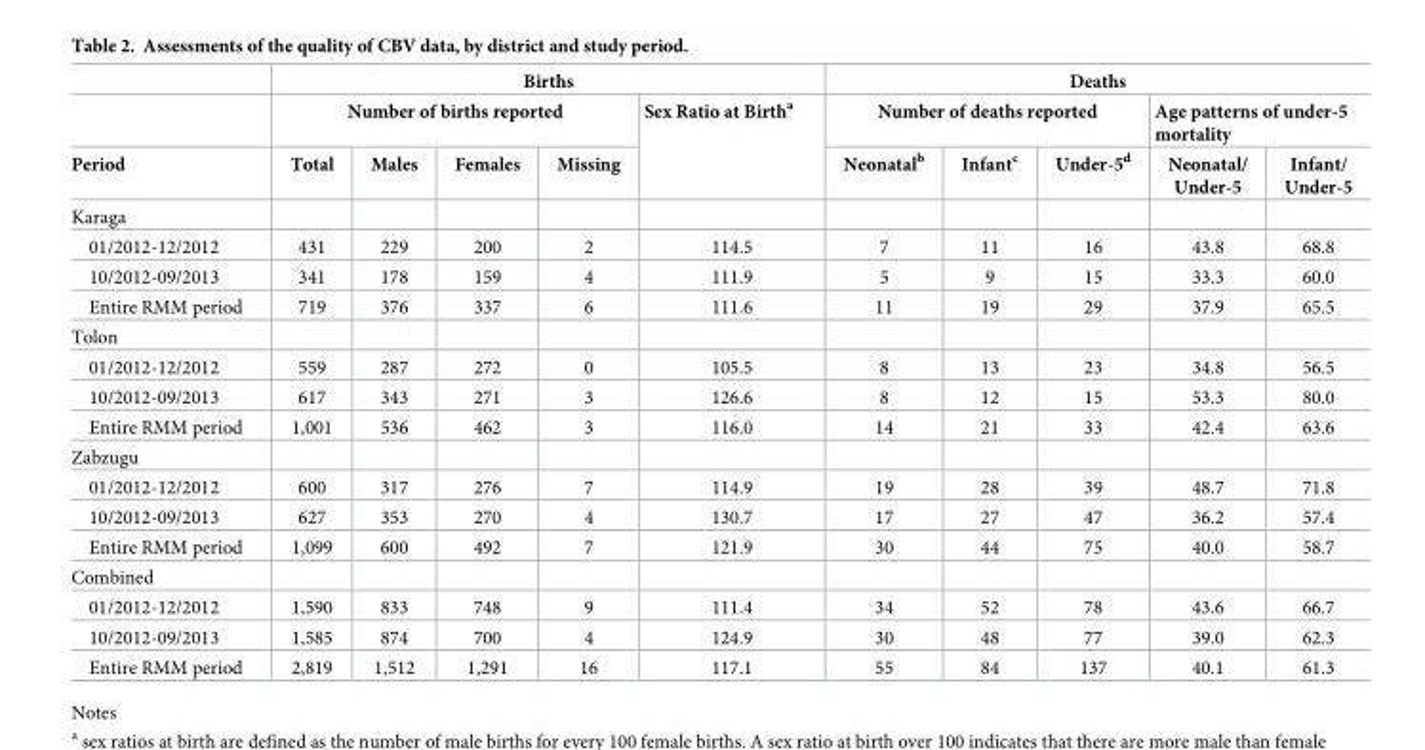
<table><thead><tr><td rowspan="3">Period</td><td colspan="5">Births</td><td colspan="5">Deaths</td></tr><tr><td colspan="4">Number of births reported</td><td rowspan="2">Sex Ratio at Birth<sup>a</sup></td><td colspan="3">Number of deaths reported</td><td colspan="2">Age patterns of under-5 mortality</td></tr><tr><td>Total</td><td>Males</td><td>Females</td><td>Missing</td><td>Neonatal<sup>b</sup></td><td>Infant<sup>c</sup></td><td>Under-5<sup>d</sup></td><td>Neonatal/ Under-5</td><td>Infant/ Under-5</td></tr></thead><tbody><tr><td colspan="11">Karaga</td></tr><tr><td>01/2012-12/2012</td><td>431</td><td>229</td><td>200</td><td>2</td><td>114.5</td><td>7</td><td>11</td><td>16</td><td>43.8</td><td>68.8</td></tr><tr><td>10/2012-09/2013</td><td>341</td><td>178</td><td>159</td><td>4</td><td>111.9</td><td>5</td><td>9</td><td>15</td><td>33.3</td><td>60.0</td></tr><tr><td>Entire RMM period</td><td>719</td><td>376</td><td>337</td><td>6</td><td>111.6</td><td>11</td><td>19</td><td>29</td><td>37.9</td><td>65.5</td></tr><tr><td colspan="11">Tolon</td></tr><tr><td>01/2012-12/2012</td><td>559</td><td>287</td><td>272</td><td>0</td><td>105.5</td><td>8</td><td>13</td><td>23</td><td>34.8</td><td>56.5</td></tr><tr><td>10/2012-09/2013</td><td>617</td><td>343</td><td>271</td><td>3</td><td>126.6</td><td>8</td><td>12</td><td>15</td><td>53.3</td><td>80.0</td></tr><tr><td>Entire RMM period</td><td>1,001</td><td>536</td><td>462</td><td>3</td><td>116.0</td><td>14</td><td>21</td><td>33</td><td>42.4</td><td>63.6</td></tr><tr><td colspan="11">Zabzugu</td></tr><tr><td>01/2012-12/2012</td><td>600</td><td>317</td><td>276</td><td>7</td><td>114.9</td><td>19</td><td>28</td><td>39</td><td>48.7</td><td>71.8</td></tr><tr><td>10/2012-09/2013</td><td>627</td><td>353</td><td>270</td><td>4</td><td>130.7</td><td>17</td><td>27</td><td>47</td><td>36.2</td><td>57.4</td></tr><tr><td>Entire RMM period</td><td>1,099</td><td>600</td><td>492</td><td>7</td><td>121.9</td><td>30</td><td>44</td><td>75</td><td>40.0</td><td>58.7</td></tr><tr><td colspan="11">Combined</td></tr><tr><td>01/2012-12/2012</td><td>1,590</td><td>833</td><td>748</td><td>9</td><td>111.4</td><td>34</td><td>52</td><td>78</td><td>43.6</td><td>66.7</td></tr><tr><td>10/2012-09/2013</td><td>1,585</td><td>874</td><td>700</td><td>4</td><td>124.9</td><td>30</td><td>48</td><td>77</td><td>39.0</td><td>62.3</td></tr><tr><td>Entire RMM period</td><td>2,819</td><td>1,512</td><td>1,291</td><td>16</td><td>117.1</td><td>55</td><td>84</td><td>137</td><td>40.1</td><td>61.3</td></tr></tbody></table>